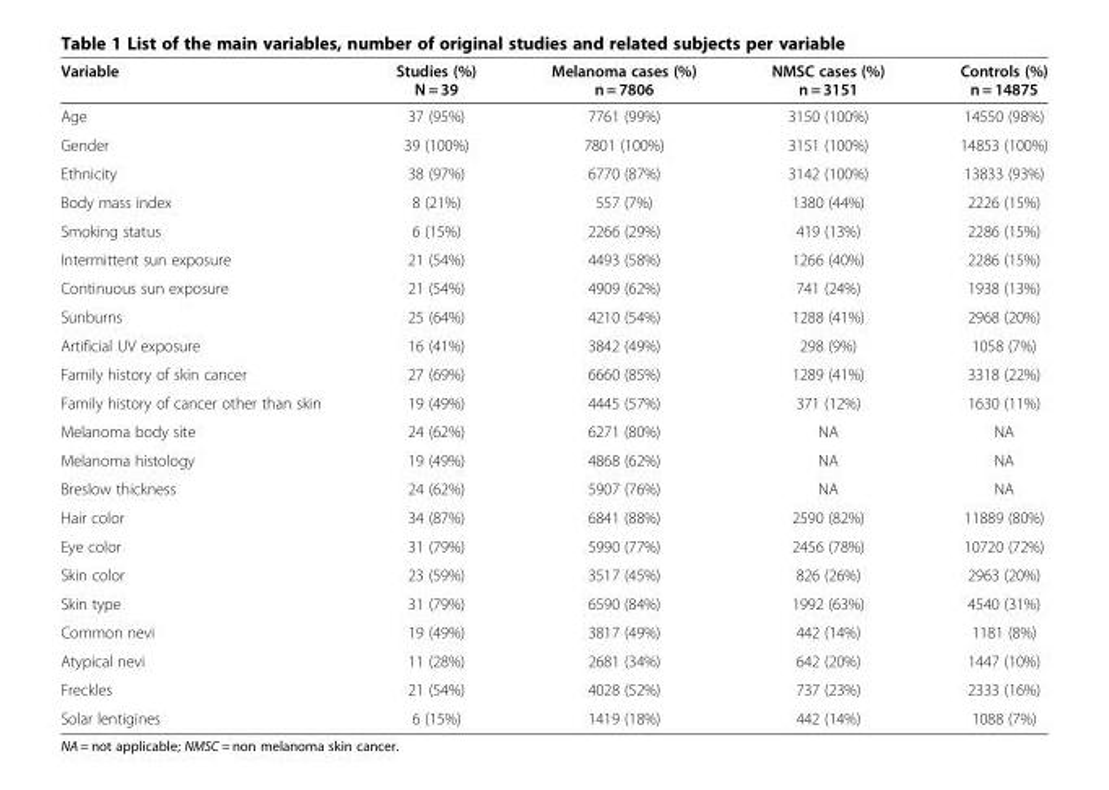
<table><thead><tr><td>Variable</td><td>Studies (%) N = 39</td><td>Melanoma cases (%) n = 7806</td><td>NMSC cases (%) n = 3151</td><td>Controls (%) n = 14875</td></tr></thead><tbody><tr><td>Age</td><td>37 (95%)</td><td>7761 (99%)</td><td>3150 (100%)</td><td>14550 (98%)</td></tr><tr><td>Gender</td><td>39 (100%)</td><td>7801 (100%)</td><td>3151 (100%)</td><td>14853 (100%)</td></tr><tr><td>Ethnicity</td><td>38 (97%)</td><td>6770 (87%)</td><td>3142 (100%)</td><td>13833 (93%)</td></tr><tr><td>Body mass index</td><td>8 (21%)</td><td>557 (7%)</td><td>1380 (44%)</td><td>2226 (15%)</td></tr><tr><td>Smoking status</td><td>6 (15%)</td><td>2266 (29%)</td><td>419 (13%)</td><td>2286 (15%)</td></tr><tr><td>Intermittent sun exposure</td><td>21 (54%)</td><td>4493 (58%)</td><td>1266 (40%)</td><td>2286 (15%)</td></tr><tr><td>Continuous sun exposure</td><td>21 (54%)</td><td>4909 (62%)</td><td>741 (24%)</td><td>1938 (13%)</td></tr><tr><td>Sunburns</td><td>25 (64%)</td><td>4210 (54%)</td><td>1288 (41%)</td><td>2968 (20%)</td></tr><tr><td>Artificial UV exposure</td><td>16 (41%)</td><td>3842 (49%)</td><td>298 (9%)</td><td>1058 (7%)</td></tr><tr><td>Family history of skin cancer</td><td>27 (69%)</td><td>6660 (85%)</td><td>1289 (41%)</td><td>3318 (22%)</td></tr><tr><td>Family history of cancer other than skin</td><td>19 (49%)</td><td>4445 (57%)</td><td>371 (12%)</td><td>1630 (11%)</td></tr><tr><td>Melanoma body site</td><td>24 (62%)</td><td>6271 (80%)</td><td>NA</td><td>NA</td></tr><tr><td>Melanoma histology</td><td>19 (49%)</td><td>4868 (62%)</td><td>NA</td><td>NA</td></tr><tr><td>Breslow thickness</td><td>24 (62%)</td><td>5907 (76%)</td><td>NA</td><td>NA</td></tr><tr><td>Hair color</td><td>34 (87%)</td><td>6841 (88%)</td><td>2590 (82%)</td><td>11889 (80%)</td></tr><tr><td>Eye color</td><td>31 (79%)</td><td>5990 (77%)</td><td>2456 (78%)</td><td>10720 (72%)</td></tr><tr><td>Skin color</td><td>23 (59%)</td><td>3517 (45%)</td><td>826 (26%)</td><td>2963 (20%)</td></tr><tr><td>Skin type</td><td>31 (79%)</td><td>6590 (84%)</td><td>1992 (63%)</td><td>4540 (31%)</td></tr><tr><td>Common nevi</td><td>19 (49%)</td><td>3817 (49%)</td><td>442 (14%)</td><td>1181 (8%)</td></tr><tr><td>Atypical nevi</td><td>11 (28%)</td><td>2681 (34%)</td><td>642 (20%)</td><td>1447 (10%)</td></tr><tr><td>Freckles</td><td>21 (54%)</td><td>4028 (52%)</td><td>737 (23%)</td><td>2333 (16%)</td></tr><tr><td>Solar lentigines</td><td>6 (15%)</td><td>1419 (18%)</td><td>442 (14%)</td><td>1088 (7%)</td></tr></tbody></table>